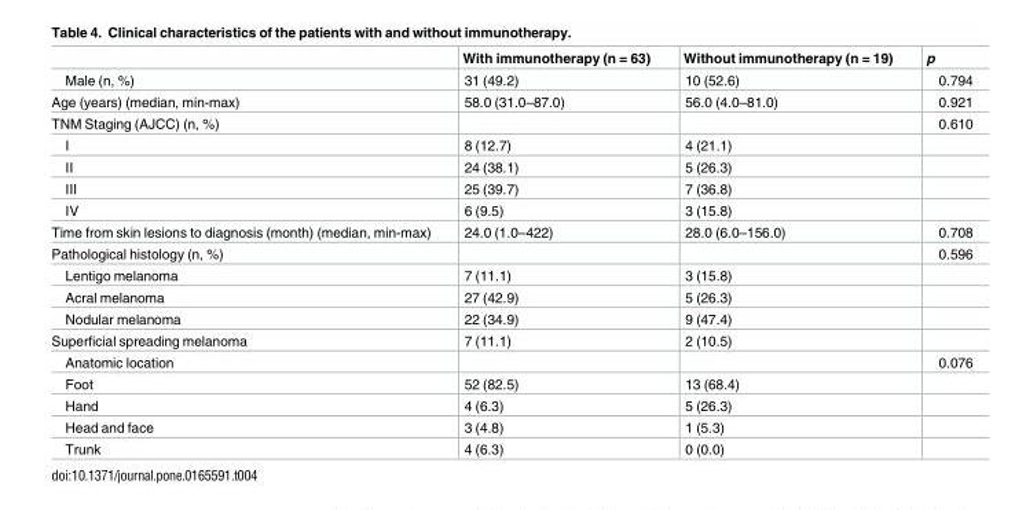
<table><thead><tr><td></td><td>With immunotherapy (n = 63)</td><td>Without immunotherapy (n = 19)</td><td>p</td></tr></thead><tbody><tr><td>Male (n, %)</td><td>31 (49.2)</td><td>10 (52.6)</td><td>0.794</td></tr><tr><td>Age (years) (median, min-max)</td><td>58.0 (31.0–87.0)</td><td>56.0 (4.0–81.0)</td><td>0.921</td></tr><tr><td>TNM Staging (AJCC) (n, %)</td><td></td><td></td><td>0.610</td></tr><tr><td>I</td><td>8 (12.7)</td><td>4 (21.1)</td><td></td></tr><tr><td>II</td><td>24 (38.1)</td><td>5 (26.3)</td><td></td></tr><tr><td>III</td><td>25 (39.7)</td><td>7 (36.8)</td><td></td></tr><tr><td>IV</td><td>6 (9.5)</td><td>3 (15.8)</td><td></td></tr><tr><td>Time from skin lesions to diagnosis (month) (median, min-max)</td><td>24.0 (1.0–422)</td><td>28.0 (6.0–156.0)</td><td>0.708</td></tr><tr><td>Pathological histology (n, %)</td><td></td><td></td><td>0.596</td></tr><tr><td>Lentigo melanoma</td><td>7 (11.1)</td><td>3 (15.8)</td><td></td></tr><tr><td>Acral melanoma</td><td>27 (42.9)</td><td>5 (26.3)</td><td></td></tr><tr><td>Nodular melanoma</td><td>22 (34.9)</td><td>9 (47.4)</td><td></td></tr><tr><td>Superficial spreading melanoma</td><td>7 (11.1)</td><td>2 (10.5)</td><td></td></tr><tr><td>Anatomic location</td><td></td><td></td><td>0.076</td></tr><tr><td>Foot</td><td>52 (82.5)</td><td>13 (68.4)</td><td></td></tr><tr><td>Hand</td><td>4 (6.3)</td><td>5 (26.3)</td><td></td></tr><tr><td>Head and face</td><td>3 (4.8)</td><td>1 (5.3)</td><td></td></tr><tr><td>Trunk</td><td>4 (6.3)</td><td>0 (0.0)</td><td></td></tr></tbody></table>